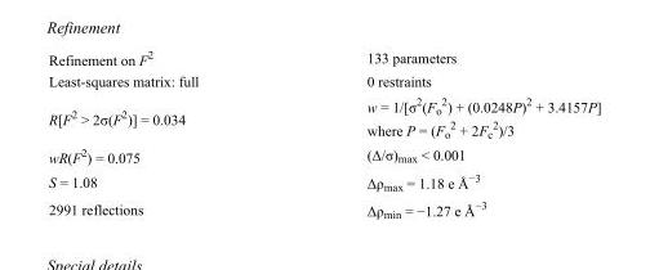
<table><tbody><tr><td>Refinement on F<sup>2</sup></td><td>133 parameters</td></tr><tr><td>Least-squares matrix: full</td><td>0 restraints</td></tr><tr><td>R[F<sup>2</sup> &gt; 2σ(F<sup>2</sup>)] = 0.034</td><td>w = 1/[σ<sup>2</sup>(F<sub>o</sub> <sup>2</sup>) + (0.0248P)<sup>2</sup> + 3.4157P] where P = (F<sub>o</sub> <sup>2</sup> + 2F<sub>c</sub> <sup>2</sup>)/3</td></tr><tr><td>wR(F<sup>2</sup>) = 0.075</td><td>(Δ/σ)<sub>max</sub> &lt; 0.001</td></tr><tr><td>S = 1.08</td><td>Δρ<sub>max</sub> = 1.18 e Å<sup>−3</sup></td></tr><tr><td>2991 reflections</td><td>Δρ<sub>min</sub> = −1.27 e Å<sup>−3</sup></td></tr></tbody></table>